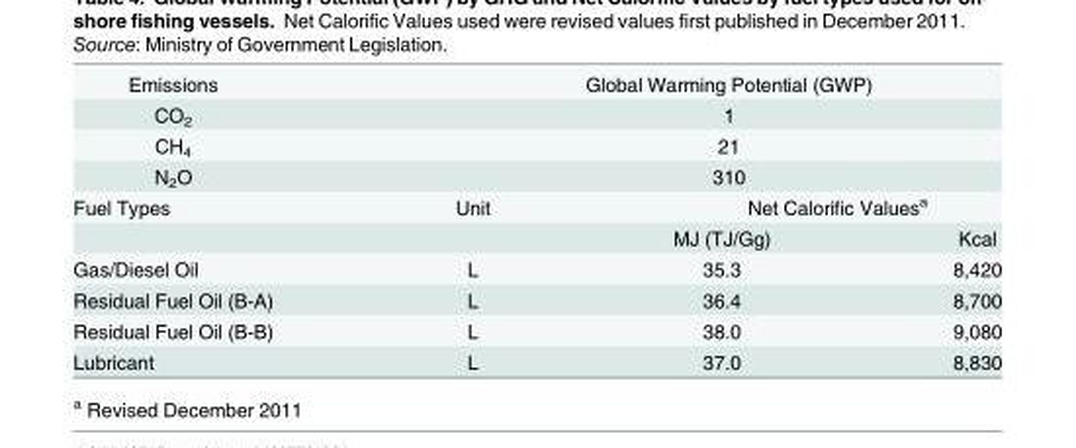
<table><tbody><tr><td>Emissions</td><td colspan="3">Global Warming Potential (GWP)</td></tr><tr><td>CO<sub>2</sub></td><td colspan="3">1</td></tr><tr><td>CH<sub>4</sub></td><td colspan="3">21</td></tr><tr><td>N<sub>2</sub>O</td><td colspan="3">310</td></tr><tr><td rowspan="2">Fuel Types</td><td>Unit</td><td colspan="2">Net Calorific Values<sup>a</sup></td></tr><tr><td></td><td>MJ (TJ/Gg)</td><td>Kcal</td></tr><tr><td>Gas/Diesel Oil</td><td>L</td><td>35.3</td><td>8,420</td></tr><tr><td>Residual Fuel Oil (B-A)</td><td>L</td><td>36.4</td><td>8,700</td></tr><tr><td>Residual Fuel Oil (B-B)</td><td>L</td><td>38.0</td><td>9,080</td></tr><tr><td>Lubricant</td><td>L</td><td>37.0</td><td>8,830</td></tr></tbody></table>